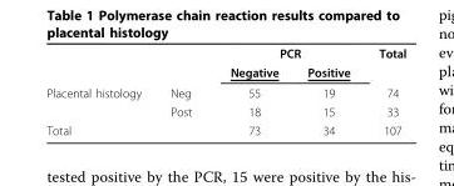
<table><thead><tr><td rowspan="2"></td><td rowspan="2"></td><td colspan="2">PCR</td><td rowspan="2">Total</td></tr><tr><td>Negative</td><td>Positive</td></tr></thead><tbody><tr><td rowspan="2">Placental histology</td><td>Neg</td><td>55</td><td>19</td><td>74</td></tr><tr><td>Post</td><td>18</td><td>15</td><td>33</td></tr><tr><td colspan="2">Total</td><td>73</td><td>34</td><td>107</td></tr></tbody></table>